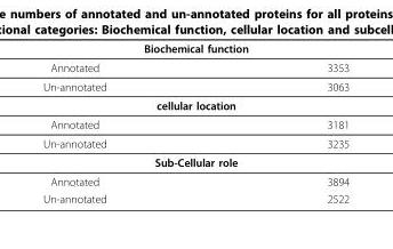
<table><thead><tr><td colspan="2">Biochemical function</td></tr><tr><td>Annotated</td><td>3353</td></tr></thead><tbody><tr><td>Un-annotated</td><td>3063</td></tr><tr><td colspan="2">cellular location</td></tr><tr><td>Annotated</td><td>3181</td></tr><tr><td>Un-annotated</td><td>3235</td></tr><tr><td colspan="2">Sub-Cellular role</td></tr><tr><td>Annotated</td><td>3894</td></tr><tr><td>Un-annotated</td><td>2522</td></tr></tbody></table>